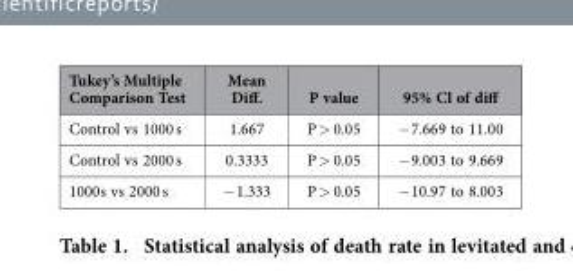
<table><thead><tr><td>Tukey’s Multiple Comparison Test</td><td>Mean Diff.</td><td>P value</td><td>95% Cl of diff</td></tr></thead><tbody><tr><td>Control vs 1000 s</td><td>1.667</td><td>P &gt; 0.05</td><td>− 7.669 to 11.00</td></tr><tr><td>Control vs 2000 s</td><td>0.3333</td><td>P &gt; 0.05</td><td>− 9.003 to 9.669</td></tr><tr><td>1000s vs 2000 s</td><td>− 1.333</td><td>P &gt; 0.05</td><td>− 10.97 to 8.003</td></tr></tbody></table>